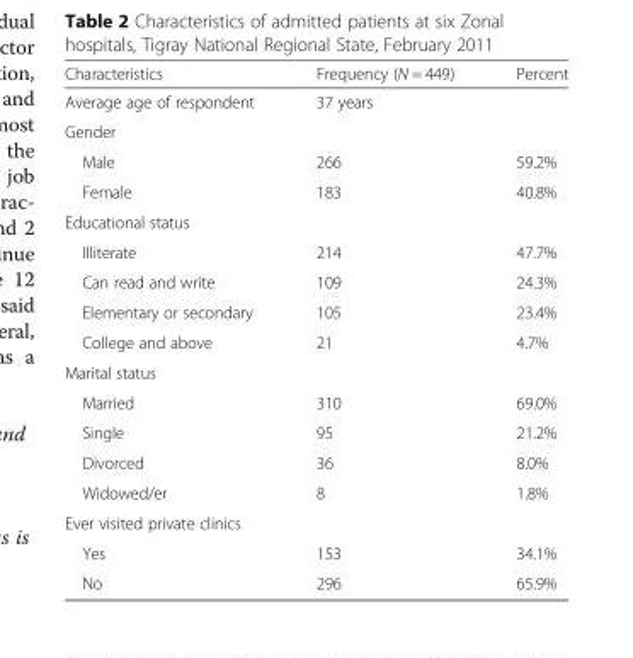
<table><thead><tr><td>Characteristics</td><td>Frequency (N = 449)</td><td>Percent</td></tr></thead><tbody><tr><td>Average age of respondent</td><td>37 years</td><td></td></tr><tr><td colspan="3">Gender</td></tr><tr><td>Male</td><td>266</td><td>59.2%</td></tr><tr><td>Female</td><td>183</td><td>40.8%</td></tr><tr><td colspan="3">Educational status</td></tr><tr><td>Illiterate</td><td>214</td><td>47.7%</td></tr><tr><td>Can read and write</td><td>109</td><td>24.3%</td></tr><tr><td>Elementary or secondary</td><td>105</td><td>23.4%</td></tr><tr><td>College and above</td><td>21</td><td>4.7%</td></tr><tr><td colspan="3">Marital status</td></tr><tr><td>Married</td><td>310</td><td>69.0%</td></tr><tr><td>Single</td><td>95</td><td>21.2%</td></tr><tr><td>Divorced</td><td>36</td><td>8.0%</td></tr><tr><td>Widowed/er</td><td>8</td><td>1.8%</td></tr><tr><td colspan="3">Ever visited private clinics</td></tr><tr><td>Yes</td><td>153</td><td>34.1%</td></tr><tr><td>No</td><td>296</td><td>65.9%</td></tr></tbody></table>